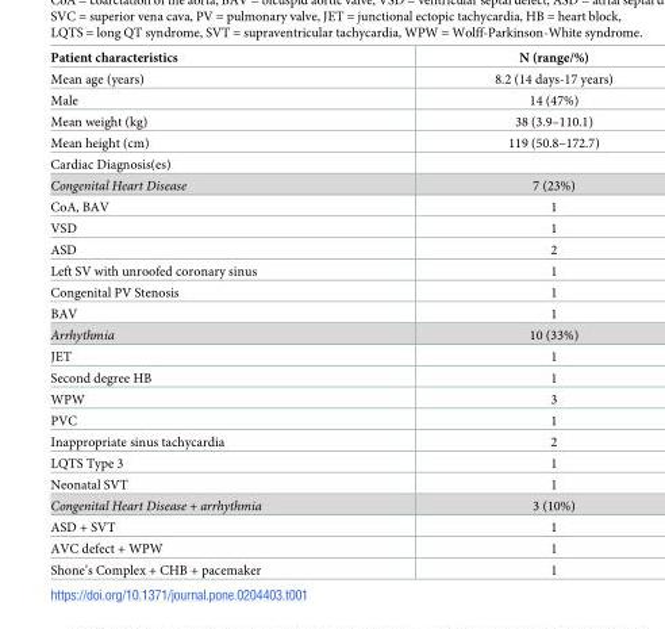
<table><thead><tr><td>Patient characteristics</td><td>N (range/%)</td></tr></thead><tbody><tr><td>Mean age (years)</td><td>8.2 (14 days-17 years)</td></tr><tr><td>Male</td><td>14 (47%)</td></tr><tr><td>Mean weight (kg)</td><td>38 (3.9–110.1)</td></tr><tr><td>Mean height (cm)</td><td>119 (50.8–172.7)</td></tr><tr><td colspan="2">Cardiac Diagnosis(es)</td></tr><tr><td>Congenital Heart Disease</td><td>7 (23%)</td></tr><tr><td>CoA, BAV</td><td>1</td></tr><tr><td>VSD</td><td>1</td></tr><tr><td>ASD</td><td>2</td></tr><tr><td>Left SV with unroofed coronary sinus</td><td>1</td></tr><tr><td>Congenital PV Stenosis</td><td>1</td></tr><tr><td>BAV</td><td>1</td></tr><tr><td>Arrhythmia</td><td>10 (33%)</td></tr><tr><td>JET</td><td>1</td></tr><tr><td>Second degree HB</td><td>1</td></tr><tr><td>WPW</td><td>3</td></tr><tr><td>PVC</td><td>1</td></tr><tr><td>Inappropriate sinus tachycardia</td><td>2</td></tr><tr><td>LQTS Type 3</td><td>1</td></tr><tr><td>Neonatal SVT</td><td>1</td></tr><tr><td>Congenital Heart Disease + arrhythmia</td><td>3 (10%)</td></tr><tr><td>ASD + SVT</td><td>1</td></tr><tr><td>AVC defect + WPW</td><td>1</td></tr><tr><td>Shone’s Complex + CHB + pacemaker</td><td>1</td></tr></tbody></table>